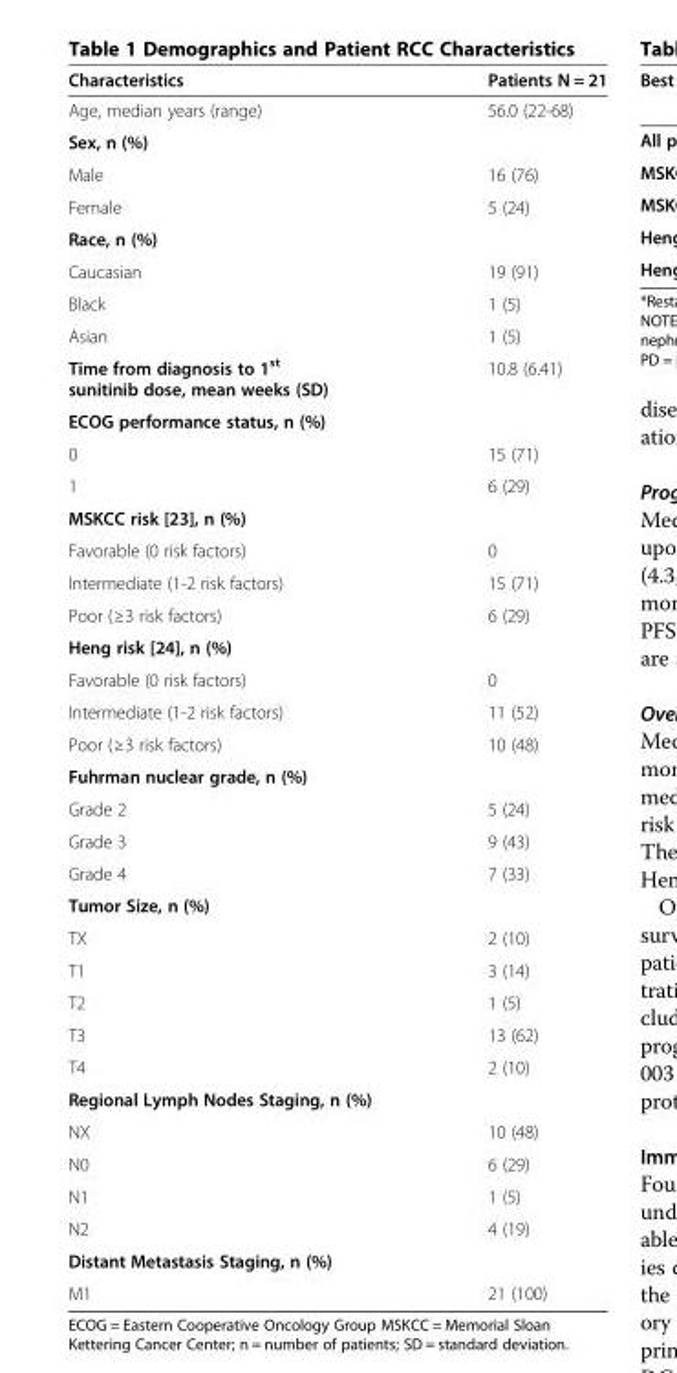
<table><thead><tr><td>Characteristics</td><td>Patients N = 21</td></tr></thead><tbody><tr><td>Age, median years (range)</td><td>56.0 (22-68)</td></tr><tr><td colspan="2">Sex, n (%)</td></tr><tr><td>Male</td><td>16 (76)</td></tr><tr><td>Female</td><td>5 (24)</td></tr><tr><td colspan="2">Race, n (%)</td></tr><tr><td>Caucasian</td><td>19 (91)</td></tr><tr><td>Black</td><td>1 (5)</td></tr><tr><td>Asian</td><td>1 (5)</td></tr><tr><td>Time from diagnosis to 1<sup>st</sup> sunitinib dose, mean weeks (SD)</td><td>10.8 (6.41)</td></tr><tr><td colspan="2">ECOG performance status, n (%)</td></tr><tr><td>0</td><td>15 (71)</td></tr><tr><td>1</td><td>6 (29)</td></tr><tr><td colspan="2">MSKCC risk [23], n (%)</td></tr><tr><td>Favorable (0 risk factors)</td><td>0</td></tr><tr><td>Intermediate (1-2 risk factors)</td><td>15 (71)</td></tr><tr><td>Poor (≥3 risk factors)</td><td>6 (29)</td></tr><tr><td colspan="2">Heng risk [24], n (%)</td></tr><tr><td>Favorable (0 risk factors)</td><td>0</td></tr><tr><td>Intermediate (1-2 risk factors)</td><td>11 (52)</td></tr><tr><td>Poor (≥3 risk factors)</td><td>10 (48)</td></tr><tr><td colspan="2">Fuhrman nuclear grade, n (%)</td></tr><tr><td>Grade 2</td><td>5 (24)</td></tr><tr><td>Grade 3</td><td>9 (43)</td></tr><tr><td>Grade 4</td><td>7 (33)</td></tr><tr><td colspan="2">Tumor Size, n (%)</td></tr><tr><td>TX</td><td>2 (10)</td></tr><tr><td>T1</td><td>3 (14)</td></tr><tr><td>T2</td><td>1 (5)</td></tr><tr><td>T3</td><td>13 (62)</td></tr><tr><td>T4</td><td>2 (10)</td></tr><tr><td colspan="2">Regional Lymph Nodes Staging, n (%)</td></tr><tr><td>NX</td><td>10 (48)</td></tr><tr><td>N0</td><td>6 (29)</td></tr><tr><td>N1</td><td>1 (5)</td></tr><tr><td>N2</td><td>4 (19)</td></tr><tr><td colspan="2">Distant Metastasis Staging, n (%)</td></tr><tr><td>M1</td><td>21 (100)</td></tr></tbody></table>